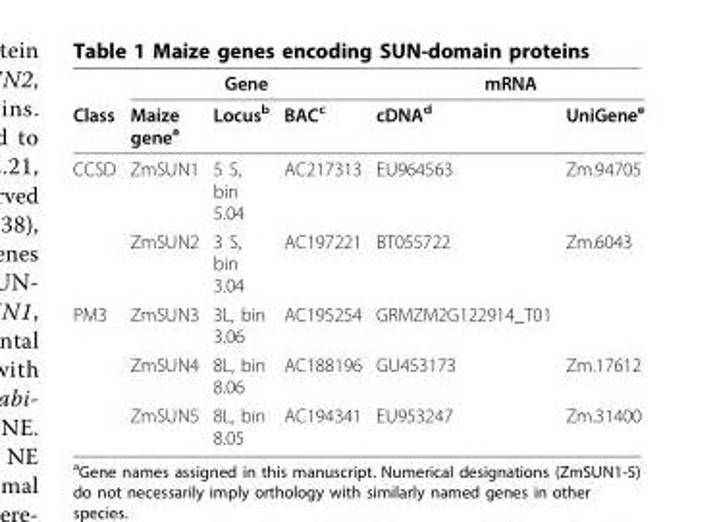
<table><thead><tr><td rowspan="2">Class</td><td colspan="3">Gene</td><td colspan="2">mRNA</td></tr><tr><td>Maize gene<sup>a</sup></td><td>Locus<sup>b</sup></td><td>BAC<sup>c</sup></td><td>cDNA<sup>d</sup></td><td>UniGene<sup>e</sup></td></tr></thead><tbody><tr><td rowspan="2">CCSD</td><td>ZmSUN1</td><td>5 S, bin 5.04</td><td>AC217313</td><td>EU964563</td><td>Zm.94705</td></tr><tr><td>ZmSUN2</td><td>3 S, bin 3.04</td><td>AC197221</td><td>BT055722</td><td>Zm.6043</td></tr><tr><td rowspan="3">PM3</td><td>ZmSUN3</td><td>3L, bin 3.06</td><td>AC195254</td><td>GRMZM2G122914_T01</td><td></td></tr><tr><td>ZmSUN4</td><td>8L, bin 8.06</td><td>AC188196</td><td>GU453173</td><td>Zm.17612</td></tr><tr><td>ZmSUN5</td><td>8L, bin 8.05</td><td>AC194341</td><td>EU953247</td><td>Zm.31400</td></tr></tbody></table>